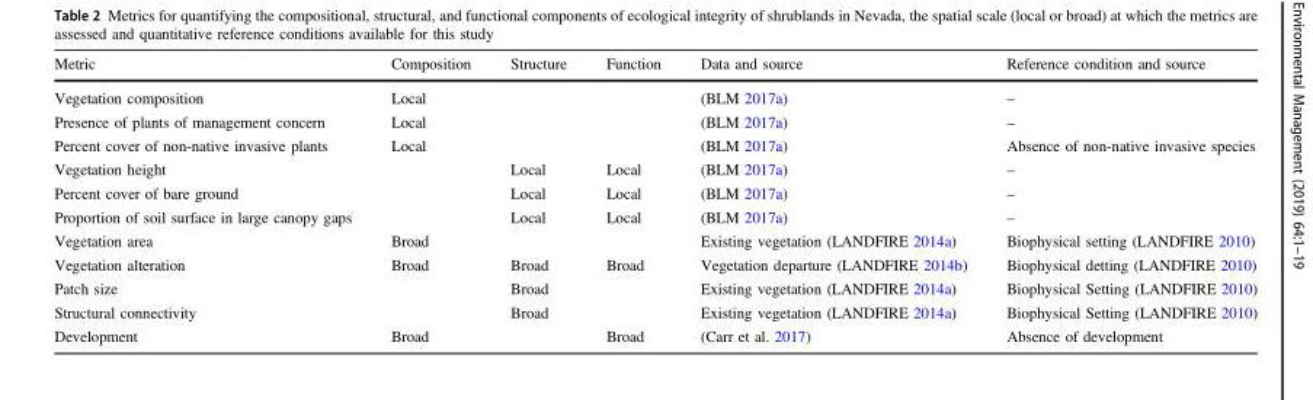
<table><thead><tr><td>Metric</td><td>Composition</td><td>Structure</td><td>Function</td><td>Data and source</td><td>Reference condition and source</td></tr></thead><tbody><tr><td>Vegetation composition</td><td>Local</td><td></td><td></td><td>(BLM 2017a)</td><td>–</td></tr><tr><td>Presence of plants of management concern</td><td>Local</td><td></td><td></td><td>(BLM 2017a)</td><td>–</td></tr><tr><td>Percent cover of non-native invasive plants</td><td>Local</td><td></td><td></td><td>(BLM 2017a)</td><td>Absence of non-native invasive species</td></tr><tr><td>Vegetation height</td><td></td><td>Local</td><td>Local</td><td>(BLM 2017a)</td><td>–</td></tr><tr><td>Percent cover of bare ground</td><td></td><td>Local</td><td>Local</td><td>(BLM 2017a)</td><td>–</td></tr><tr><td>Proportion of soil surface in large canopy gaps</td><td></td><td>Local</td><td>Local</td><td>(BLM 2017a)</td><td>–</td></tr><tr><td>Vegetation area</td><td>Broad</td><td></td><td></td><td>Existing vegetation (LANDFIRE 2014a)</td><td>Biophysical setting (LANDFIRE 2010)</td></tr><tr><td>Vegetation alteration</td><td>Broad</td><td>Broad</td><td>Broad</td><td>Vegetation departure (LANDFIRE 2014b)</td><td>Biophysical detting (LANDFIRE 2010)</td></tr><tr><td>Patch size</td><td></td><td>Broad</td><td></td><td>Existing vegetation (LANDFIRE 2014a)</td><td>Biophysical Setting (LANDFIRE 2010)</td></tr><tr><td>Structural connectivity</td><td></td><td>Broad</td><td></td><td>Existing vegetation (LANDFIRE 2014a)</td><td>Biophysical Setting (LANDFIRE 2010)</td></tr><tr><td>Development</td><td>Broad</td><td></td><td>Broad</td><td>(Carr et al. 2017)</td><td>Absence of development</td></tr></tbody></table>